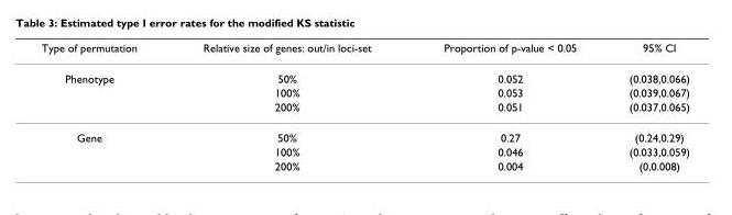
<table><thead><tr><td>Type of permutation</td><td>Relative size of genes: out/in loci-set</td><td>Proportion of p-value &lt; 0.05</td><td>95% CI</td></tr></thead><tbody><tr><td rowspan="3">Phenotype</td><td>50%</td><td>0.052</td><td>(0.038,0.066)</td></tr><tr><td>100%</td><td>0.053</td><td>(0.039,0.067)</td></tr><tr><td>200%</td><td>0.051</td><td>(0.037,0.065)</td></tr><tr><td rowspan="3">Gene</td><td>50%</td><td>0.27</td><td>(0.24,0.29)</td></tr><tr><td>100%</td><td>0.046</td><td>(0.033,0.059)</td></tr><tr><td>200%</td><td>0.004</td><td>(0,0.008)</td></tr></tbody></table>